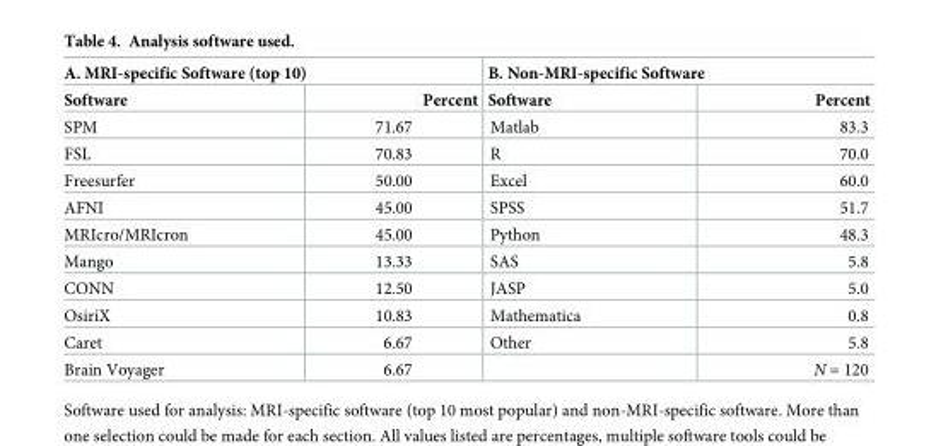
<table><thead><tr><td colspan="2">A. MRI-specific Software (top 10)</td><td colspan="2">B. Non-MRI-specific Software</td></tr><tr><td>Software</td><td>Percent</td><td>Software</td><td>Percent</td></tr></thead><tbody><tr><td>SPM</td><td>71.67</td><td>Matlab</td><td>83.3</td></tr><tr><td>FSL</td><td>70.83</td><td>R</td><td>70.0</td></tr><tr><td>Freesurfer</td><td>50.00</td><td>Excel</td><td>60.0</td></tr><tr><td>AFNI</td><td>45.00</td><td>SPSS</td><td>51.7</td></tr><tr><td>MRIcro/MRIcron</td><td>45.00</td><td>Python</td><td>48.3</td></tr><tr><td>Mango</td><td>13.33</td><td>SAS</td><td>5.8</td></tr><tr><td>CONN</td><td>12.50</td><td>JASP</td><td>5.0</td></tr><tr><td>OsiriX</td><td>10.83</td><td>Mathematica</td><td>0.8</td></tr><tr><td>Caret</td><td>6.67</td><td>Other</td><td>5.8</td></tr><tr><td>Brain Voyager</td><td>6.67</td><td></td><td>N = 120</td></tr></tbody></table>